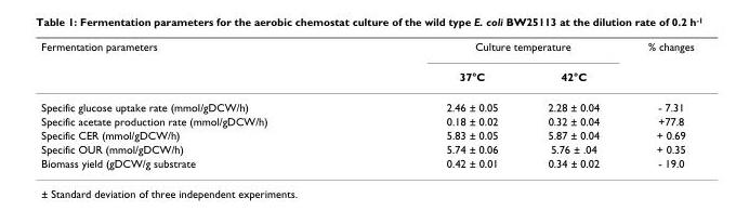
<table><thead><tr><td rowspan="2">Fermentation parameters</td><td colspan="2">Culture temperature</td><td rowspan="2">% changes</td></tr><tr><td>37°C</td><td>42°C</td></tr></thead><tbody><tr><td>Specific glucose uptake rate (mmol/gDCW/h)</td><td>2.46 ± 0.05</td><td>2.28 ± 0.04</td><td>- 7.31</td></tr><tr><td>Specific acetate production rate (mmol/gDCW/h)</td><td>0.18 ± 0.02</td><td>0.32 ± 0.04</td><td>+77.8</td></tr><tr><td>Specific CER (mmol/gDCW/h)</td><td>5.83 ± 0.05</td><td>5.87 ± 0.04</td><td>+ 0.69</td></tr><tr><td>Specific OUR (mmol/gDCW/h)</td><td>5.74 ± 0.06</td><td>5.76 ± .04</td><td>+ 0.35</td></tr><tr><td>Biomass yield (gDCW/g substrate</td><td>0.42 ± 0.01</td><td>0.34 ± 0.02</td><td>- 19.0</td></tr></tbody></table>